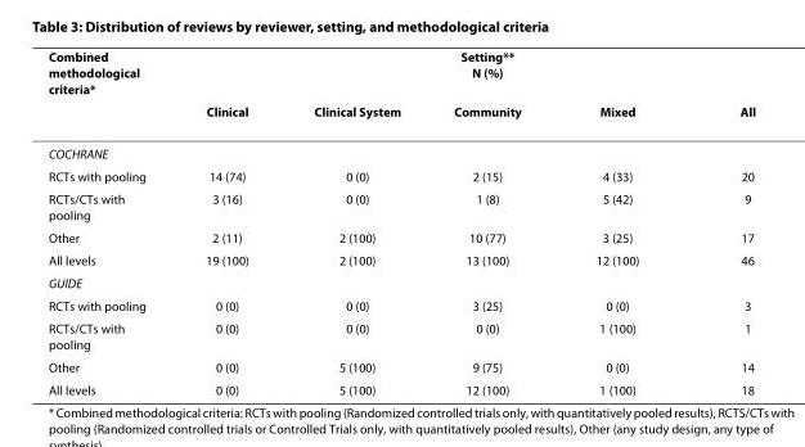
<table><thead><tr><td rowspan="2">Combined methodological criteria*</td><td colspan="5">Setting** N (%)</td></tr><tr><td>Clinical</td><td>Clinical System</td><td>Community</td><td>Mixed</td><td>All</td></tr></thead><tbody><tr><td colspan="6">COCHRANE</td></tr><tr><td>RCTs with pooling</td><td>14 (74)</td><td>0 (0)</td><td>2 (15)</td><td>4 (33)</td><td>20</td></tr><tr><td>RCTs/CTs with pooling</td><td>3 (16)</td><td>0 (0)</td><td>1 (8)</td><td>5 (42)</td><td>9</td></tr><tr><td>Other</td><td>2 (11)</td><td>2 (100)</td><td>10 (77)</td><td>3 (25)</td><td>17</td></tr><tr><td>All levels</td><td>19 (100)</td><td>2 (100)</td><td>13 (100)</td><td>12 (100)</td><td>46</td></tr><tr><td colspan="6">GUIDE</td></tr><tr><td>RCTs with pooling</td><td>0 (0)</td><td>0 (0)</td><td>3 (25)</td><td>0 (0)</td><td>3</td></tr><tr><td>RCTs/CTs with pooling</td><td>0 (0)</td><td>0 (0)</td><td>0 (0)</td><td>1 (100)</td><td>1</td></tr><tr><td>Other</td><td>0 (0)</td><td>5 (100)</td><td>9 (75)</td><td>0 (0)</td><td>14</td></tr><tr><td>All levels</td><td>0 (0)</td><td>5 (100)</td><td>12 (100)</td><td>1 (100)</td><td>18</td></tr></tbody></table>